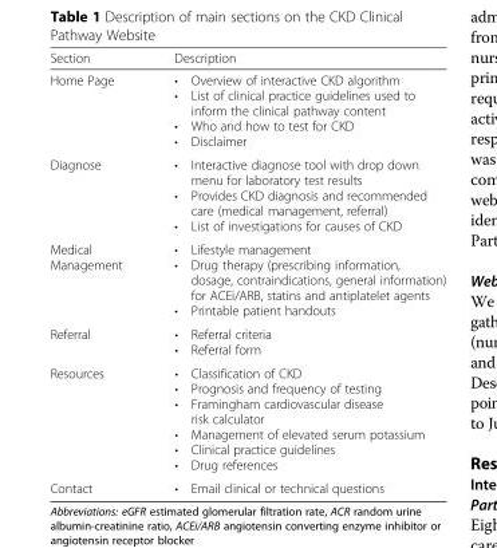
<table><thead><tr><td>Section</td><td>Description</td></tr></thead><tbody><tr><td>Home Page</td><td>• Overview of interactive CKD algorithm • List of clinical practice guidelines used to inform the clinical pathway content • Who and how to test for CKD • Disclaimer</td></tr><tr><td>Diagnose</td><td>• Interactive diagnose tool with drop down menu for laboratory test results • Provides CKD diagnosis and recommended care (medical management, referral) • List of investigations for causes of CKD</td></tr><tr><td>Medical Management</td><td>• Lifestyle management • Drug therapy (prescribing information, dosage, contraindications, general information) for ACEi/ARB, statins and antiplatelet agents • Printable patient handouts</td></tr><tr><td>Referral</td><td>• Referral criteria • Referral form</td></tr><tr><td>Resources</td><td>• Classification of CKD • Prognosis and frequency of testing • Framingham cardiovascular disease risk calculator • Management of elevated serum potassium • Clinical practice guidelines • Drug references</td></tr><tr><td>Contact</td><td>• Email clinical or technical questions</td></tr></tbody></table>